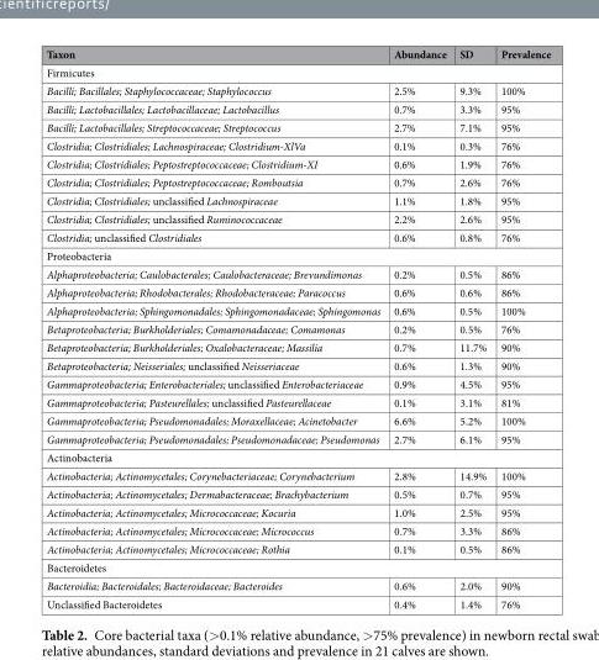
<table><thead><tr><td>Taxon</td><td>Abundance</td><td>SD</td><td>Prevalence</td></tr></thead><tbody><tr><td colspan="4">Firmicutes</td></tr><tr><td>Bacilli; Bacillales; Staphylococcaceae; Staphylococcus</td><td>2.5%</td><td>9.3%</td><td>100%</td></tr><tr><td>Bacilli; Lactobacillales; Lactobacillaceae; Lactobacillus</td><td>0.7%</td><td>3.3%</td><td>95%</td></tr><tr><td>Bacilli; Lactobacillales; Streptococcaceae; Streptococcus</td><td>2.7%</td><td>7.1%</td><td>95%</td></tr><tr><td>Clostridia; Clostridiales; Lachnospiraceae; Clostridium-XlVa</td><td>0.1%</td><td>0.3%</td><td>76%</td></tr><tr><td>Clostridia; Clostridiales; Peptostreptococcaceae; Clostridium-XI</td><td>0.6%</td><td>1.9%</td><td>76%</td></tr><tr><td>Clostridia; Clostridiales; Peptostreptococcaceae; Romboutsia</td><td>0.7%</td><td>2.6%</td><td>76%</td></tr><tr><td>Clostridia; Clostridiales; unclassified Lachnospiraceae</td><td>1.1%</td><td>1.8%</td><td>95%</td></tr><tr><td>Clostridia; Clostridiales; unclassified Ruminococcaceae</td><td>2.2%</td><td>2.6%</td><td>95%</td></tr><tr><td>Clostridia; unclassified Clostridiales</td><td>0.6%</td><td>0.8%</td><td>76%</td></tr><tr><td colspan="4">Proteobacteria</td></tr><tr><td>Alphaproteobacteria; Caulobacterales; Caulobacteraceae; Brevundimonas</td><td>0.2%</td><td>0.5%</td><td>86%</td></tr><tr><td>Alphaproteobacteria; Rhodobacterales; Rhodobacteraceae; Paracoccus</td><td>0.6%</td><td>0.6%</td><td>86%</td></tr><tr><td>Alphaproteobacteria; Sphingomonadales; Sphingomonadaceae; Sphingomonas</td><td>0.6%</td><td>0.5%</td><td>100%</td></tr><tr><td>Betaproteobacteria; Burkholderiales; Comamonadaceae; Comamonas</td><td>0.2%</td><td>0.5%</td><td>76%</td></tr><tr><td>Betaproteobacteria; Burkholderiales; Oxalobacteraceae; Massilia</td><td>0.7%</td><td>11.7%</td><td>90%</td></tr><tr><td>Betaproteobacteria; Neisseriales; unclassified Neisseriaceae</td><td>0.6%</td><td>1.3%</td><td>90%</td></tr><tr><td>Gammaproteobacteria; Enterobacteriales; unclassified Enterobacteriaceae</td><td>0.9%</td><td>4.5%</td><td>95%</td></tr><tr><td>Gammaproteobacteria; Pasteurellales; unclassified Pasteurellaceae</td><td>0.1%</td><td>3.1%</td><td>81%</td></tr><tr><td>Gammaproteobacteria; Pseudomonadales; Moraxellaceae; Acinetobacter</td><td>6.6%</td><td>5.2%</td><td>100%</td></tr><tr><td>Gammaproteobacteria; Pseudomonadales; Pseudomonadaceae; Pseudomonas</td><td>2.7%</td><td>6.1%</td><td>95%</td></tr><tr><td colspan="4">Actinobacteria</td></tr><tr><td>Actinobacteria; Actinomycetales; Corynebacteriaceae; Corynebacterium</td><td>2.8%</td><td>14.9%</td><td>100%</td></tr><tr><td>Actinobacteria; Actinomycetales; Dermabacteraceae; Brachybacterium</td><td>0.5%</td><td>0.7%</td><td>95%</td></tr><tr><td>Actinobacteria; Actinomycetales; Micrococcaceae; Kocuria</td><td>1.0%</td><td>2.5%</td><td>95%</td></tr><tr><td>Actinobacteria; Actinomycetales; Micrococcaceae; Micrococcus</td><td>0.7%</td><td>3.3%</td><td>86%</td></tr><tr><td>Actinobacteria; Actinomycetales; Micrococcaceae; Rothia</td><td>0.1%</td><td>0.5%</td><td>86%</td></tr><tr><td colspan="4">Bacteroidetes</td></tr><tr><td>Bacteroidia; Bacteroidales; Bacteroidaceae; Bacteroides</td><td>0.6%</td><td>2.0%</td><td>90%</td></tr><tr><td>Unclassified Bacteroidetes</td><td>0.4%</td><td>1.4%</td><td>76%</td></tr></tbody></table>